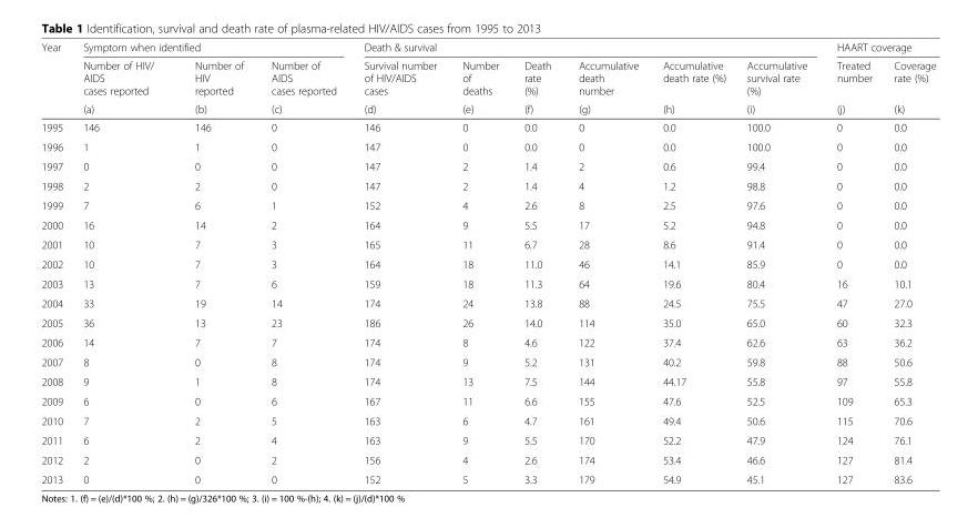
<table><thead><tr><td rowspan="3">Year</td><td colspan="3">Symptom when identified</td><td colspan="6">Death &amp; survival</td><td colspan="2">HAART coverage</td></tr><tr><td rowspan="2">Number of HIV/ AIDS cases reported (a)</td><td rowspan="2">Number of HIV reported (b)</td><td rowspan="2">Number of AIDS cases reported (c)</td><td rowspan="2">Survival number of HIV/AIDS cases (d)</td><td rowspan="2">Number of deaths (e)</td><td rowspan="2">Death rate (%) (f)</td><td rowspan="2">Accumulative death number (g)</td><td rowspan="2">Accumulative death rate (%) (h)</td><td rowspan="2">Accumulative survival rate (%) (i)</td><td rowspan="2">Treated number (j)</td><td rowspan="2">Coverage rate (%) (k)</td></tr><tr></tr></thead><tbody><tr><td>1995</td><td>146</td><td>146</td><td>0</td><td>146</td><td>0</td><td>0.0</td><td>0</td><td>0.0</td><td>100.0</td><td>0</td><td>0.0</td></tr><tr><td>1996</td><td>1</td><td>1</td><td>0</td><td>147</td><td>0</td><td>0.0</td><td>0</td><td>0.0</td><td>100.0</td><td>0</td><td>0.0</td></tr><tr><td>1997</td><td>0</td><td>0</td><td>0</td><td>147</td><td>2</td><td>1.4</td><td>2</td><td>0.6</td><td>99.4</td><td>0</td><td>0.0</td></tr><tr><td>1998</td><td>2</td><td>2</td><td>0</td><td>147</td><td>2</td><td>1.4</td><td>4</td><td>1.2</td><td>98.8</td><td>0</td><td>0.0</td></tr><tr><td>1999</td><td>7</td><td>6</td><td>1</td><td>152</td><td>4</td><td>2.6</td><td>8</td><td>2.5</td><td>97.6</td><td>0</td><td>0.0</td></tr><tr><td>2000</td><td>16</td><td>14</td><td>2</td><td>164</td><td>9</td><td>5.5</td><td>17</td><td>5.2</td><td>94.8</td><td>0</td><td>0.0</td></tr><tr><td>2001</td><td>10</td><td>7</td><td>3</td><td>165</td><td>11</td><td>6.7</td><td>28</td><td>8.6</td><td>91.4</td><td>0</td><td>0.0</td></tr><tr><td>2002</td><td>10</td><td>7</td><td>3</td><td>164</td><td>18</td><td>11.0</td><td>46</td><td>14.1</td><td>85.9</td><td>0</td><td>0.0</td></tr><tr><td>2003</td><td>13</td><td>7</td><td>6</td><td>159</td><td>18</td><td>11.3</td><td>64</td><td>19.6</td><td>80.4</td><td>16</td><td>10.1</td></tr><tr><td>2004</td><td>33</td><td>19</td><td>14</td><td>174</td><td>24</td><td>13.8</td><td>88</td><td>24.5</td><td>75.5</td><td>47</td><td>27.0</td></tr><tr><td>2005</td><td>36</td><td>13</td><td>23</td><td>186</td><td>26</td><td>14.0</td><td>114</td><td>35.0</td><td>65.0</td><td>60</td><td>32.3</td></tr><tr><td>2006</td><td>14</td><td>7</td><td>7</td><td>174</td><td>8</td><td>4.6</td><td>122</td><td>37.4</td><td>62.6</td><td>63</td><td>36.2</td></tr><tr><td>2007</td><td>8</td><td>0</td><td>8</td><td>174</td><td>9</td><td>5.2</td><td>131</td><td>40.2</td><td>59.8</td><td>88</td><td>50.6</td></tr><tr><td>2008</td><td>9</td><td>1</td><td>8</td><td>174</td><td>13</td><td>7.5</td><td>144</td><td>44.17</td><td>55.8</td><td>97</td><td>55.8</td></tr><tr><td>2009</td><td>6</td><td>0</td><td>6</td><td>167</td><td>11</td><td>6.6</td><td>155</td><td>47.6</td><td>52.5</td><td>109</td><td>65.3</td></tr><tr><td>2010</td><td>7</td><td>2</td><td>5</td><td>163</td><td>6</td><td>4.7</td><td>161</td><td>49.4</td><td>50.6</td><td>115</td><td>70.6</td></tr><tr><td>2011</td><td>6</td><td>2</td><td>4</td><td>163</td><td>9</td><td>5.5</td><td>170</td><td>52.2</td><td>47.9</td><td>124</td><td>76.1</td></tr><tr><td>2012</td><td>2</td><td>0</td><td>2</td><td>156</td><td>4</td><td>2.6</td><td>174</td><td>53.4</td><td>46.6</td><td>127</td><td>81.4</td></tr><tr><td>2013</td><td>0</td><td>0</td><td>0</td><td>152</td><td>5</td><td>3.3</td><td>179</td><td>54.9</td><td>45.1</td><td>127</td><td>83.6</td></tr></tbody></table>